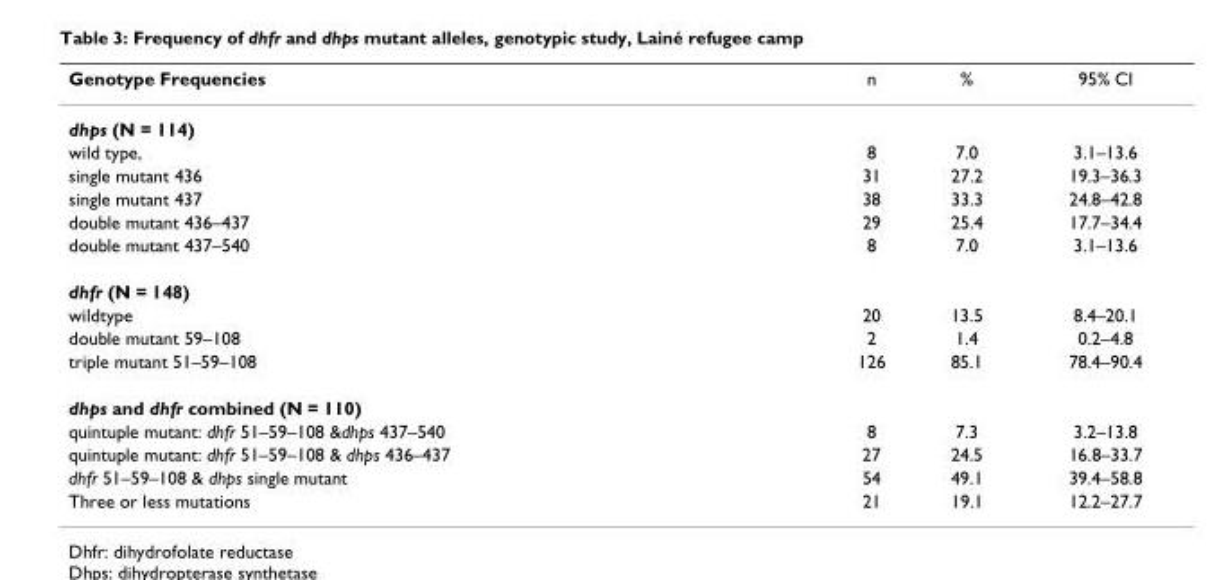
<table><thead><tr><td>Genotype Frequencies</td><td>n</td><td>%</td><td>95% CI</td></tr></thead><tbody><tr><td colspan="4">dhps (N = 114)</td></tr><tr><td>wild type,</td><td>8</td><td>7.0</td><td>3.1–13.6</td></tr><tr><td>single mutant 436</td><td>31</td><td>27.2</td><td>19.3–36.3</td></tr><tr><td>single mutant 437</td><td>38</td><td>33.3</td><td>24.8–42.8</td></tr><tr><td>double mutant 436–437</td><td>29</td><td>25.4</td><td>17.7–34.4</td></tr><tr><td>double mutant 437–540</td><td>8</td><td>7.0</td><td>3.1–13.6</td></tr><tr><td colspan="4">dhfr (N = 148)</td></tr><tr><td>wildtype</td><td>20</td><td>13.5</td><td>8.4–20.1</td></tr><tr><td>double mutant 59–108</td><td>2</td><td>1.4</td><td>0.2–4.8</td></tr><tr><td>triple mutant 51–59–108</td><td>126</td><td>85.1</td><td>78.4–90.4</td></tr><tr><td colspan="4">dhps and dhfr combined (N = 110)</td></tr><tr><td>quintuple mutant: dhfr 51–59–108 &amp;dhps 437–540</td><td>8</td><td>7.3</td><td>3.2–13.8</td></tr><tr><td>quintuple mutant: dhfr 51–59–108 &amp; dhps 436–437</td><td>27</td><td>24.5</td><td>16.8–33.7</td></tr><tr><td>dhfr 51–59–108 &amp; dhps single mutant</td><td>54</td><td>49.1</td><td>39.4–58.8</td></tr><tr><td>Three or less mutations</td><td>21</td><td>19.1</td><td>12.2–27.7</td></tr></tbody></table>